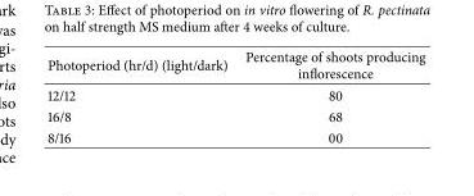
<table><thead><tr><td>Photoperiod (hr/d) (light/dark)</td><td>Percentage of shoots producing inflorescence</td></tr></thead><tbody><tr><td>12/12</td><td>80</td></tr><tr><td>16/8</td><td>68</td></tr><tr><td>8/16</td><td>00</td></tr></tbody></table>